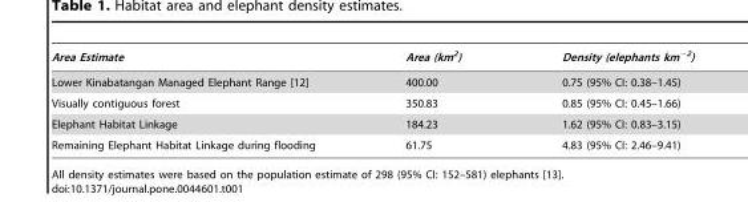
<table><thead><tr><td>Area Estimate</td><td>Area (km<sup>2</sup>)</td><td>Density (elephants km<sup>−2</sup>)</td></tr></thead><tbody><tr><td>Lower Kinabatangan Managed Elephant Range [12]</td><td>400.00</td><td>0.75 (95% CI: 0.38–1.45)</td></tr><tr><td>Visually contiguous forest</td><td>350.83</td><td>0.85 (95% CI: 0.45–1.66)</td></tr><tr><td>Elephant Habitat Linkage</td><td>184.23</td><td>1.62 (95% CI: 0.83–3.15)</td></tr><tr><td>Remaining Elephant Habitat Linkage during flooding</td><td>61.75</td><td>4.83 (95% CI: 2.46–9.41)</td></tr></tbody></table>